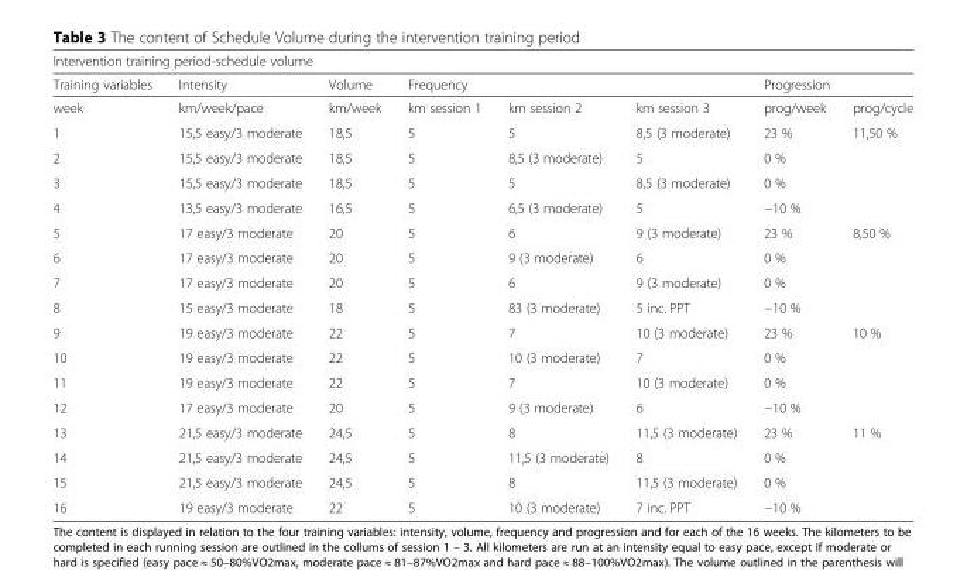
<table><thead><tr><td colspan="8">Intervention training period-schedule volume</td></tr><tr><td rowspan="2">Training variables week</td><td rowspan="2">Intensity km/week/pace</td><td rowspan="2">Volume km/week</td><td colspan="3">Frequency</td><td colspan="2">Progression</td></tr><tr><td>km session 1</td><td>km session 2</td><td>km session 3</td><td>prog/week</td><td>prog/cycle</td></tr></thead><tbody><tr><td>1</td><td>15,5 easy/3 moderate</td><td>18,5</td><td>5</td><td>5</td><td>8,5 (3 moderate)</td><td>23 %</td><td rowspan="4">11,50 %</td></tr><tr><td>2</td><td>15,5 easy/3 moderate</td><td>18,5</td><td>5</td><td>8,5 (3 moderate)</td><td>5</td><td>0 %</td></tr><tr><td>3</td><td>15,5 easy/3 moderate</td><td>18,5</td><td>5</td><td>5</td><td>8,5 (3 moderate)</td><td>0 %</td></tr><tr><td>4</td><td>13,5 easy/3 moderate</td><td>16,5</td><td>5</td><td>6,5 (3 moderate)</td><td>5</td><td>−10 %</td></tr><tr><td>5</td><td>17 easy/3 moderate</td><td>20</td><td>5</td><td>6</td><td>9 (3 moderate)</td><td>23 %</td><td rowspan="4">8,50 %</td></tr><tr><td>6</td><td>17 easy/3 moderate</td><td>20</td><td>5</td><td>9 (3 moderate)</td><td>6</td><td>0 %</td></tr><tr><td>7</td><td>17 easy/3 moderate</td><td>20</td><td>5</td><td>6</td><td>9 (3 moderate)</td><td>0 %</td></tr><tr><td>8</td><td>15 easy/3 moderate</td><td>18</td><td>5</td><td>83 (3 moderate)</td><td>5 inc. PPT</td><td>−10 %</td></tr><tr><td>9</td><td>19 easy/3 moderate</td><td>22</td><td>5</td><td>7</td><td>10 (3 moderate)</td><td>23 %</td><td rowspan="4">10 %</td></tr><tr><td>10</td><td>19 easy/3 moderate</td><td>22</td><td>5</td><td>10 (3 moderate)</td><td>7</td><td>0 %</td></tr><tr><td>11</td><td>19 easy/3 moderate</td><td>22</td><td>5</td><td>7</td><td>10 (3 moderate)</td><td>0 %</td></tr><tr><td>12</td><td>17 easy/3 moderate</td><td>20</td><td>5</td><td>9 (3 moderate)</td><td>6</td><td>−10 %</td></tr><tr><td>13</td><td>21,5 easy/3 moderate</td><td>24,5</td><td>5</td><td>8</td><td>11,5 (3 moderate)</td><td>23 %</td><td rowspan="4">11 %</td></tr><tr><td>14</td><td>21,5 easy/3 moderate</td><td>24,5</td><td>5</td><td>11,5 (3 moderate)</td><td>8</td><td>0 %</td></tr><tr><td>15</td><td>21,5 easy/3 moderate</td><td>24,5</td><td>5</td><td>8</td><td>11,5 (3 moderate)</td><td>0 %</td></tr><tr><td>16</td><td>19 easy/3 moderate</td><td>22</td><td>5</td><td>10 (3 moderate)</td><td>7 inc. PPT</td><td>−10 %</td></tr></tbody></table>